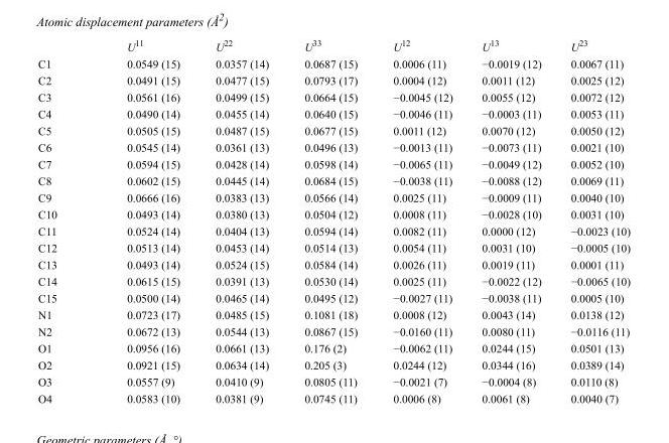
<table><thead><tr><td></td><td>U<sup>11</sup></td><td>U<sup>22</sup></td><td>U<sup>33</sup></td><td>U<sup>12</sup></td><td>U<sup>13</sup></td><td>U<sup>23</sup></td></tr></thead><tbody><tr><td>C1</td><td>0.0549 (15)</td><td>0.0357 (14)</td><td>0.0687 (15)</td><td>0.0006 (11)</td><td>−0.0019 (12)</td><td>0.0067 (11)</td></tr><tr><td>C2</td><td>0.0491 (15)</td><td>0.0477 (15)</td><td>0.0793 (17)</td><td>0.0004 (12)</td><td>0.0011 (12)</td><td>0.0025 (12)</td></tr><tr><td>C3</td><td>0.0561 (16)</td><td>0.0499 (15)</td><td>0.0664 (15)</td><td>−0.0045 (12)</td><td>0.0055 (12)</td><td>0.0072 (12)</td></tr><tr><td>C4</td><td>0.0490 (14)</td><td>0.0455 (14)</td><td>0.0640 (15)</td><td>−0.0046 (11)</td><td>−0.0003 (11)</td><td>0.0053 (11)</td></tr><tr><td>C5</td><td>0.0505 (15)</td><td>0.0487 (15)</td><td>0.0677 (15)</td><td>0.0011 (12)</td><td>0.0070 (12)</td><td>0.0050 (12)</td></tr><tr><td>C6</td><td>0.0545 (14)</td><td>0.0361 (13)</td><td>0.0496 (13)</td><td>−0.0013 (11)</td><td>−0.0073 (11)</td><td>0.0021 (10)</td></tr><tr><td>C7</td><td>0.0594 (15)</td><td>0.0428 (14)</td><td>0.0598 (14)</td><td>−0.0065 (11)</td><td>−0.0049 (12)</td><td>0.0052 (10)</td></tr><tr><td>C8</td><td>0.0602 (15)</td><td>0.0445 (14)</td><td>0.0684 (15)</td><td>−0.0038 (11)</td><td>−0.0088 (12)</td><td>0.0069 (11)</td></tr><tr><td>C9</td><td>0.0666 (16)</td><td>0.0383 (13)</td><td>0.0566 (14)</td><td>0.0025 (11)</td><td>−0.0009 (11)</td><td>0.0040 (10)</td></tr><tr><td>C10</td><td>0.0493 (14)</td><td>0.0380 (13)</td><td>0.0504 (12)</td><td>0.0008 (11)</td><td>−0.0028 (10)</td><td>0.0031 (10)</td></tr><tr><td>C11</td><td>0.0524 (14)</td><td>0.0404 (13)</td><td>0.0594 (14)</td><td>0.0082 (11)</td><td>0.0000 (12)</td><td>−0.0023 (10)</td></tr><tr><td>C12</td><td>0.0513 (14)</td><td>0.0453 (14)</td><td>0.0514 (13)</td><td>0.0054 (11)</td><td>0.0031 (10)</td><td>−0.0005 (10)</td></tr><tr><td>C13</td><td>0.0493 (14)</td><td>0.0524 (15)</td><td>0.0584 (14)</td><td>0.0026 (11)</td><td>0.0019 (11)</td><td>0.0001 (11)</td></tr><tr><td>C14</td><td>0.0615 (15)</td><td>0.0391 (13)</td><td>0.0530 (14)</td><td>0.0025 (11)</td><td>−0.0022 (12)</td><td>−0.0065 (10)</td></tr><tr><td>C15</td><td>0.0500 (14)</td><td>0.0465 (14)</td><td>0.0495 (12)</td><td>−0.0027 (11)</td><td>−0.0038 (11)</td><td>0.0005 (10)</td></tr><tr><td>N1</td><td>0.0723 (17)</td><td>0.0485 (15)</td><td>0.1081 (18)</td><td>0.0008 (12)</td><td>0.0043 (14)</td><td>0.0138 (12)</td></tr><tr><td>N2</td><td>0.0672 (13)</td><td>0.0544 (13)</td><td>0.0867 (15)</td><td>−0.0160 (11)</td><td>0.0080 (11)</td><td>−0.0116 (11)</td></tr><tr><td>O1</td><td>0.0956 (16)</td><td>0.0661 (13)</td><td>0.176 (2)</td><td>−0.0062 (11)</td><td>0.0244 (15)</td><td>0.0501 (13)</td></tr><tr><td>O2</td><td>0.0921 (15)</td><td>0.0634 (14)</td><td>0.205 (3)</td><td>0.0244 (12)</td><td>0.0344 (16)</td><td>0.0389 (14)</td></tr><tr><td>O3</td><td>0.0557 (9)</td><td>0.0410 (9)</td><td>0.0805 (11)</td><td>−0.0021 (7)</td><td>−0.0004 (8)</td><td>0.0110 (8)</td></tr><tr><td>O4</td><td>0.0583 (10)</td><td>0.0381 (9)</td><td>0.0745 (11)</td><td>0.0006 (8)</td><td>0.0061 (8)</td><td>0.0040 (7)</td></tr></tbody></table>